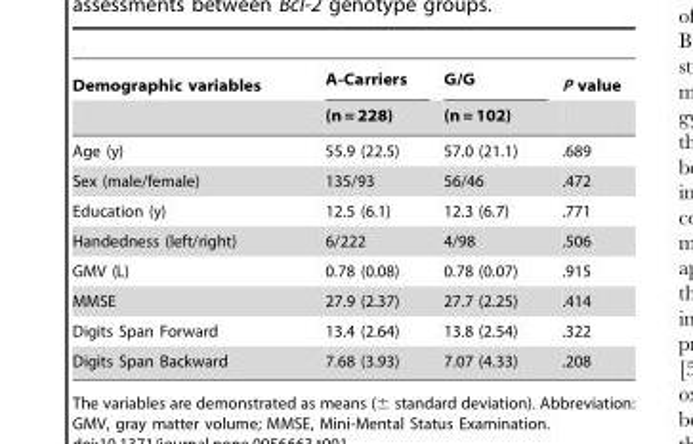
<table><thead><tr><td rowspan="2">Demographic variables</td><td rowspan="2">A-Carriers (n = 228)</td><td rowspan="2">G/G (n = 102)</td><td rowspan="2">P value</td></tr><tr></tr></thead><tbody><tr><td>Age (y)</td><td>55.9 (22.5)</td><td>57.0 (21.1)</td><td>.689</td></tr><tr><td>Sex (male/female)</td><td>135/93</td><td>56/46</td><td>.472</td></tr><tr><td>Education (y)</td><td>12.5 (6.1)</td><td>12.3 (6.7)</td><td>.771</td></tr><tr><td>Handedness (left/right)</td><td>6/222</td><td>4/98</td><td>.506</td></tr><tr><td>GMV (L)</td><td>0.78 (0.08)</td><td>0.78 (0.07)</td><td>.915</td></tr><tr><td>MMSE</td><td>27.9 (2.37)</td><td>27.7 (2.25)</td><td>.414</td></tr><tr><td>Digits Span Forward</td><td>13.4 (2.64)</td><td>13.8 (2.54)</td><td>.322</td></tr><tr><td>Digits Span Backward</td><td>7.68 (3.93)</td><td>7.07 (4.33)</td><td>.208</td></tr></tbody></table>